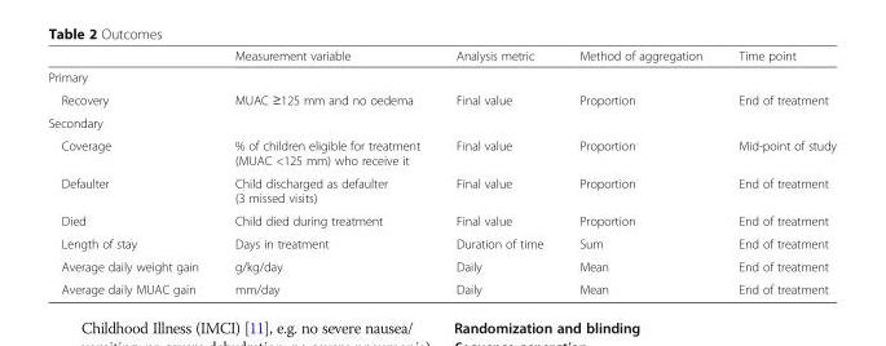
<table><thead><tr><td></td><td>Measurement variable</td><td>Analysis metric</td><td>Method of aggregation</td><td>Time point</td></tr></thead><tbody><tr><td colspan="5">Primary</td></tr><tr><td>Recovery</td><td>MUAC ≥125 mm and no oedema</td><td>Final value</td><td>Proportion</td><td>End of treatment</td></tr><tr><td colspan="5">Secondary</td></tr><tr><td>Coverage</td><td>% of children eligible for treatment (MUAC &lt;125 mm) who receive it</td><td>Final value</td><td>Proportion</td><td>Mid-point of study</td></tr><tr><td>Defaulter</td><td>Child discharged as defaulter (3 missed visits)</td><td>Final value</td><td>Proportion</td><td>End of treatment</td></tr><tr><td>Died</td><td>Child died during treatment</td><td>Final value</td><td>Proportion</td><td>End of treatment</td></tr><tr><td>Length of stay</td><td>Days in treatment</td><td>Duration of time</td><td>Sum</td><td>End of treatment</td></tr><tr><td>Average daily weight gain</td><td>g/kg/day</td><td>Daily</td><td>Mean</td><td>End of treatment</td></tr><tr><td>Average daily MUAC gain</td><td>mm/day</td><td>Daily</td><td>Mean</td><td>End of treatment</td></tr></tbody></table>